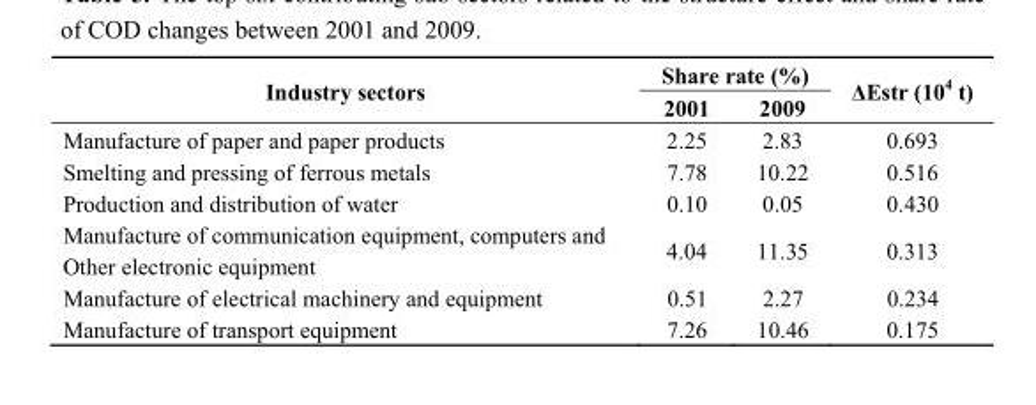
<table><thead><tr><td rowspan="2">Industry sectors</td><td colspan="2">Share rate (%)</td><td rowspan="2">ΔEstr (10<sup>4</sup> t)</td></tr><tr><td>2001</td><td>2009</td></tr></thead><tbody><tr><td>Manufacture of paper and paper products</td><td>2.25</td><td>2.83</td><td>0.693</td></tr><tr><td>Smelting and pressing of ferrous metals</td><td>7.78</td><td>10.22</td><td>0.516</td></tr><tr><td>Production and distribution of water</td><td>0.10</td><td>0.05</td><td>0.430</td></tr><tr><td>Manufacture of communication equipment, computers and Other electronic equipment</td><td>4.04</td><td>11.35</td><td>0.313</td></tr><tr><td>Manufacture of electrical machinery and equipment</td><td>0.51</td><td>2.27</td><td>0.234</td></tr><tr><td>Manufacture of transport equipment</td><td>7.26</td><td>10.46</td><td>0.175</td></tr></tbody></table>